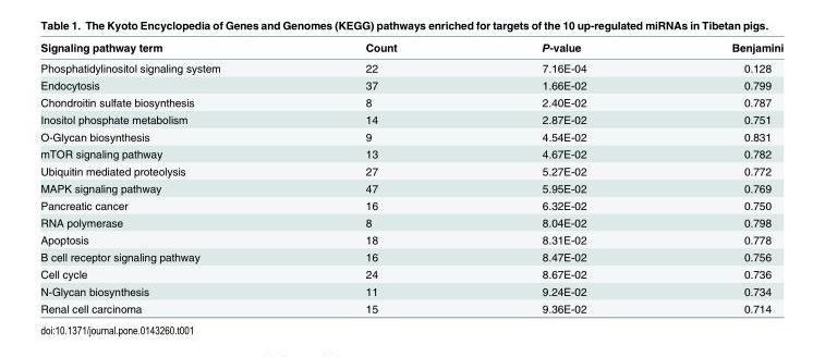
<table><thead><tr><td>Signaling pathway term</td><td>Count</td><td>P-value</td><td>Benjamini</td></tr></thead><tbody><tr><td>Phosphatidylinositol signaling system</td><td>22</td><td>7.16E-04</td><td>0.128</td></tr><tr><td>Endocytosis</td><td>37</td><td>1.66E-02</td><td>0.799</td></tr><tr><td>Chondroitin sulfate biosynthesis</td><td>8</td><td>2.40E-02</td><td>0.787</td></tr><tr><td>Inositol phosphate metabolism</td><td>14</td><td>2.87E-02</td><td>0.751</td></tr><tr><td>O-Glycan biosynthesis</td><td>9</td><td>4.54E-02</td><td>0.831</td></tr><tr><td>mTOR signaling pathway</td><td>13</td><td>4.67E-02</td><td>0.782</td></tr><tr><td>Ubiquitin mediated proteolysis</td><td>27</td><td>5.27E-02</td><td>0.772</td></tr><tr><td>MAPK signaling pathway</td><td>47</td><td>5.95E-02</td><td>0.769</td></tr><tr><td>Pancreatic cancer</td><td>16</td><td>6.32E-02</td><td>0.750</td></tr><tr><td>RNA polymerase</td><td>8</td><td>8.04E-02</td><td>0.798</td></tr><tr><td>Apoptosis</td><td>18</td><td>8.31E-02</td><td>0.778</td></tr><tr><td>B cell receptor signaling pathway</td><td>16</td><td>8.47E-02</td><td>0.756</td></tr><tr><td>Cell cycle</td><td>24</td><td>8.67E-02</td><td>0.736</td></tr><tr><td>N-Glycan biosynthesis</td><td>11</td><td>9.24E-02</td><td>0.734</td></tr><tr><td>Renal cell carcinoma</td><td>15</td><td>9.36E-02</td><td>0.714</td></tr></tbody></table>